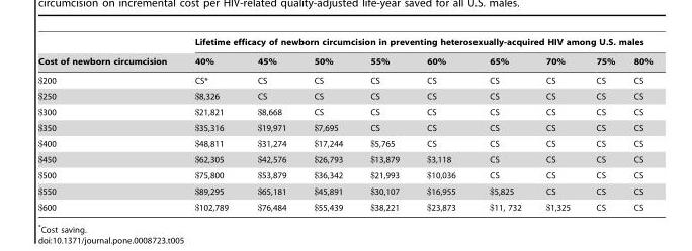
<table><thead><tr><td rowspan="2">Cost of newborn circumcision</td><td colspan="9">Lifetime efficacy of newborn circumcision in preventing heterosexually-acquired HIV among U.S. males</td></tr><tr><td>40%</td><td>45%</td><td>50%</td><td>55%</td><td>60%</td><td>65%</td><td>70%</td><td>75%</td><td>80%</td></tr></thead><tbody><tr><td>$200</td><td>CS*</td><td>CS</td><td>CS</td><td>CS</td><td>CS</td><td>CS</td><td>CS</td><td>CS</td><td>CS</td></tr><tr><td>$250</td><td>$8,326</td><td>CS</td><td>CS</td><td>CS</td><td>CS</td><td>CS</td><td>CS</td><td>CS</td><td>CS</td></tr><tr><td>$300</td><td>$21,821</td><td>$8,668</td><td>CS</td><td>CS</td><td>CS</td><td>CS</td><td>CS</td><td>CS</td><td>CS</td></tr><tr><td>$350</td><td>$35,316</td><td>$19,971</td><td>$7,695</td><td>CS</td><td>CS</td><td>CS</td><td>CS</td><td>CS</td><td>CS</td></tr><tr><td>$400</td><td>$48,811</td><td>$31,274</td><td>$17,244</td><td>$5,765</td><td>CS</td><td>CS</td><td>CS</td><td>CS</td><td>CS</td></tr><tr><td>$450</td><td>$62,305</td><td>$42,576</td><td>$26,793</td><td>$13,879</td><td>$3,118</td><td>CS</td><td>CS</td><td>CS</td><td>CS</td></tr><tr><td>$500</td><td>$75,800</td><td>$53,879</td><td>$36,342</td><td>$21,993</td><td>$10,036</td><td>CS</td><td>CS</td><td>CS</td><td>CS</td></tr><tr><td>$550</td><td>$89,295</td><td>$65,181</td><td>$45,891</td><td>$30,107</td><td>$16,955</td><td>$5,825</td><td>CS</td><td>CS</td><td>CS</td></tr><tr><td>$600</td><td>$102,789</td><td>$76,484</td><td>$55,439</td><td>$38,221</td><td>$23,873</td><td>$11, 732</td><td>$1,325</td><td>CS</td><td>CS</td></tr></tbody></table>